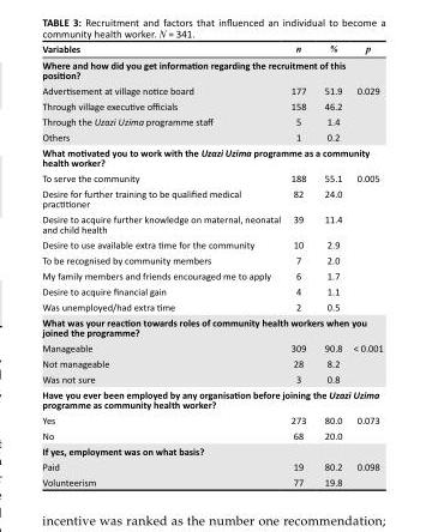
<table><thead><tr><td>Variables</td><td>n</td><td>%</td><td>p</td></tr></thead><tbody><tr><td colspan="4">Where and how did you get information regarding the recruitment of this position?</td></tr><tr><td>Advertisement at village notice board</td><td>177</td><td>51.9</td><td>0.029</td></tr><tr><td>Through village executive officials</td><td>158</td><td>46.2</td><td></td></tr><tr><td>Through the Uzazi Uzima programme staff</td><td>5</td><td>1.4</td><td></td></tr><tr><td>Others</td><td>1</td><td>0.2</td><td></td></tr><tr><td colspan="4">What motivated you to work with the Uzazi Uzima programme as a community health worker?</td></tr><tr><td>To serve the community</td><td>188</td><td>55.1</td><td>0.005</td></tr><tr><td>Desire for further training to be qualified medical practitioner</td><td>82</td><td>24.0</td><td></td></tr><tr><td>Desire to acquire further knowledge on maternal, neonatal and child health</td><td>39</td><td>11.4</td><td></td></tr><tr><td>Desire to use available extra time for the community</td><td>10</td><td>2.9</td><td></td></tr><tr><td>To be recognised by community members</td><td>7</td><td>2.0</td><td></td></tr><tr><td>My family members and friends encouraged me to apply</td><td>6</td><td>1.7</td><td></td></tr><tr><td>Desire to acquire financial gain</td><td>4</td><td>1.1</td><td></td></tr><tr><td>Was unemployed/had extra time</td><td>2</td><td>0.5</td><td></td></tr><tr><td colspan="4">What was your reaction towards roles of community health workers when you joined the programme?</td></tr><tr><td>Manageable</td><td>309</td><td>90.8</td><td>&lt; 0.001</td></tr><tr><td>Not manageable</td><td>28</td><td>8.2</td><td></td></tr><tr><td>Was not sure</td><td>3</td><td>0.8</td><td></td></tr><tr><td colspan="4">Have you ever been employed by any organisation before joining the Uzazi Uzima programme as community health worker?</td></tr><tr><td>Yes</td><td>273</td><td>80.0</td><td>0.073</td></tr><tr><td>No</td><td>68</td><td>20.0</td><td></td></tr><tr><td colspan="4">If yes, employment was on what basis?</td></tr><tr><td>Paid</td><td>19</td><td>80.2</td><td>0.098</td></tr><tr><td>Volunteerism</td><td>77</td><td>19.8</td><td></td></tr></tbody></table>